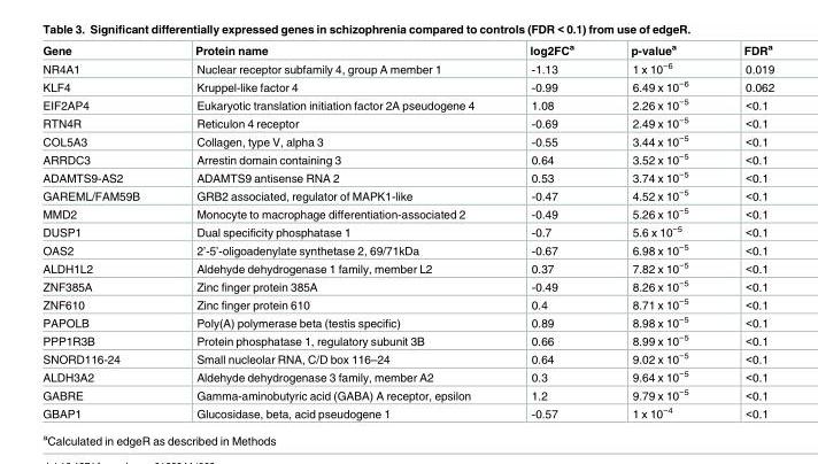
<table><thead><tr><td>Gene</td><td>Protein name</td><td>log2FC<sup>a</sup></td><td>p-value<sup>a</sup></td><td>FDR<sup>a</sup></td></tr></thead><tbody><tr><td>NR4A1</td><td>Nuclear receptor subfamily 4, group A member 1</td><td>-1.13</td><td>1 x 10<sup>−6</sup></td><td>0.019</td></tr><tr><td>KLF4</td><td>Kruppel-like factor 4</td><td>-0.99</td><td>6.49 x 10<sup>−6</sup></td><td>0.062</td></tr><tr><td>EIF2AP4</td><td>Eukaryotic translation initiation factor 2A pseudogene 4</td><td>1.08</td><td>2.26 x 10<sup>−5</sup></td><td>&lt;0.1</td></tr><tr><td>RTN4R</td><td>Reticulon 4 receptor</td><td>-0.69</td><td>2.49 x 10<sup>−5</sup></td><td>&lt;0.1</td></tr><tr><td>COL5A3</td><td>Collagen, type V, alpha 3</td><td>-0.55</td><td>3.44 x 10<sup>−5</sup></td><td>&lt;0.1</td></tr><tr><td>ARRDC3</td><td>Arrestin domain containing 3</td><td>0.64</td><td>3.52 x 10<sup>−5</sup></td><td>&lt;0.1</td></tr><tr><td>ADAMTS9-AS2</td><td>ADAMTS9 antisense RNA 2</td><td>0.53</td><td>3.74 x 10<sup>−5</sup></td><td>&lt;0.1</td></tr><tr><td>GAREML/FAM59B</td><td>GRB2 associated, regulator of MAPK1-like</td><td>-0.47</td><td>4.52 x 10<sup>−5</sup></td><td>&lt;0.1</td></tr><tr><td>MMD2</td><td>Monocyte to macrophage differentiation-associated 2</td><td>-0.49</td><td>5.26 x 10<sup>−5</sup></td><td>&lt;0.1</td></tr><tr><td>DUSP1</td><td>Dual specificity phosphatase 1</td><td>-0.7</td><td>5.6 x 10<sup>−5</sup></td><td>&lt;0.1</td></tr><tr><td>OAS2</td><td>2’-5’-oligoadenylate synthetase 2, 69/71kDa</td><td>-0.67</td><td>6.98 x 10<sup>−5</sup></td><td>&lt;0.1</td></tr><tr><td>ALDH1L2</td><td>Aldehyde dehydrogenase 1 family, member L2</td><td>0.37</td><td>7.82 x 10<sup>−5</sup></td><td>&lt;0.1</td></tr><tr><td>ZNF385A</td><td>Zinc finger protein 385A</td><td>-0.49</td><td>8.26 x 10<sup>−5</sup></td><td>&lt;0.1</td></tr><tr><td>ZNF610</td><td>Zinc finger protein 610</td><td>0.4</td><td>8.71 x 10<sup>−5</sup></td><td>&lt;0.1</td></tr><tr><td>PAPOLB</td><td>Poly(A) polymerase beta (testis specific)</td><td>0.89</td><td>8.98 x 10<sup>−5</sup></td><td>&lt;0.1</td></tr><tr><td>PPP1R3B</td><td>Protein phosphatase 1, regulatory subunit 3B</td><td>0.66</td><td>8.99 x 10<sup>−5</sup></td><td>&lt;0.1</td></tr><tr><td>SNORD116-24</td><td>Small nucleolar RNA, C/D box 116–24</td><td>0.64</td><td>9.02 x 10<sup>−5</sup></td><td>&lt;0.1</td></tr><tr><td>ALDH3A2</td><td>Aldehyde dehydrogenase 3 family, member A2</td><td>0.3</td><td>9.64 x 10<sup>−5</sup></td><td>&lt;0.1</td></tr><tr><td>GABRE</td><td>Gamma-aminobutyric acid (GABA) A receptor, epsilon</td><td>1.2</td><td>9.79 x 10<sup>−5</sup></td><td>&lt;0.1</td></tr><tr><td>GBAP1</td><td>Glucosidase, beta, acid pseudogene 1</td><td>-0.57</td><td>1 x 10<sup>−4</sup></td><td>&lt;0.1</td></tr></tbody></table>